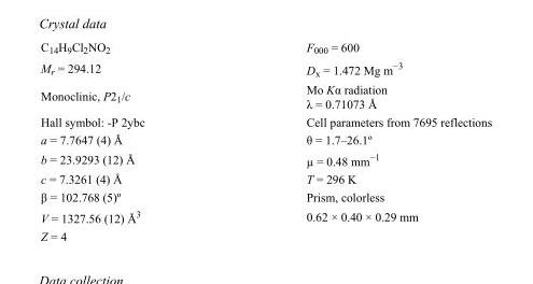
<table><tbody><tr><td>C<sub>14</sub>H<sub>9</sub>Cl<sub>2</sub>NO<sub>2</sub></td><td>F<sub>000</sub> = 600</td></tr><tr><td>M<sub>r</sub> = 294.12</td><td>D<sub>x</sub> = 1.472 Mg m<sup>−3</sup></td></tr><tr><td>Monoclinic, P2<sub>1</sub>/c</td><td>Mo Kα radiation λ = 0.71073 Å</td></tr><tr><td>Hall symbol: -P 2ybc</td><td>Cell parameters from 7695 reflections</td></tr><tr><td>a = 7.7647 (4) Å</td><td>θ = 1.7–26.1º</td></tr><tr><td>b = 23.9293 (12) Å</td><td>µ = 0.48 mm<sup>−1</sup></td></tr><tr><td>c = 7.3261 (4) Å</td><td>T = 296 K</td></tr><tr><td>β = 102.768 (5)º</td><td>Prism, colorless</td></tr><tr><td>V = 1327.56 (12) Å<sup>3</sup></td><td>0.62 × 0.40 × 0.29 mm</td></tr><tr><td>Z = 4</td><td></td></tr></tbody></table>